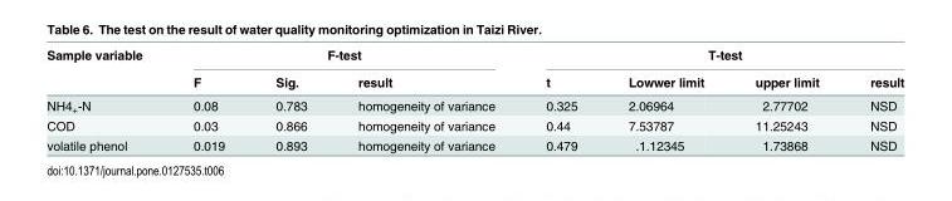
<table><thead><tr><td rowspan="2">Sample variable</td><td colspan="3">F-test</td><td colspan="4">T-test</td></tr><tr><td>F</td><td>Sig.</td><td>result</td><td>t</td><td>Lowwer limit</td><td>upper limit</td><td>result</td></tr></thead><tbody><tr><td>NH4<sub>+</sub>-N</td><td>0.08</td><td>0.783</td><td>homogeneity of variance</td><td>0.325</td><td>2.06964</td><td>2.77702</td><td>NSD</td></tr><tr><td>COD</td><td>0.03</td><td>0.866</td><td>homogeneity of variance</td><td>0.44</td><td>7.53787</td><td>11.25243</td><td>NSD</td></tr><tr><td>volatile phenol</td><td>0.019</td><td>0.893</td><td>homogeneity of variance</td><td>0.479</td><td>.1.12345</td><td>1.73868</td><td>NSD</td></tr></tbody></table>